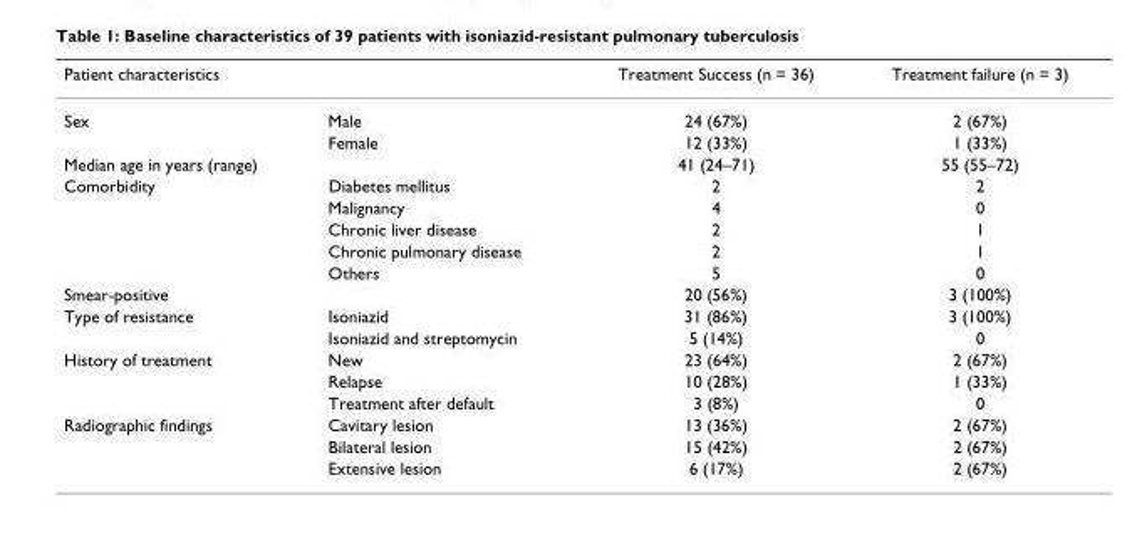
<table><thead><tr><td colspan="2">Patient characteristics</td><td rowspan="2">Treatment Success (n = 36) 24 (67%)</td><td rowspan="2">Treatment failure (n = 3) 2 (67%)</td></tr><tr><td>Sex</td><td>Male</td></tr></thead><tbody><tr><td></td><td>Female</td><td>12 (33%)</td><td>1 (33%)</td></tr><tr><td colspan="2">Median age in years (range)</td><td>41 (24–71)</td><td>55 (55–72)</td></tr><tr><td rowspan="5">Comorbidity</td><td>Diabetes mellitus</td><td>2</td><td>2</td></tr><tr><td>Malignancy</td><td>4</td><td>0</td></tr><tr><td>Chronic liver disease</td><td>2</td><td>1</td></tr><tr><td>Chronic pulmonary disease</td><td>2</td><td>1</td></tr><tr><td>Others</td><td>5</td><td>0</td></tr><tr><td>Smear-positive</td><td></td><td>20 (56%)</td><td>3 (100%)</td></tr><tr><td rowspan="2">Type of resistance</td><td>Isoniazid</td><td>31 (86%)</td><td>3 (100%)</td></tr><tr><td>Isoniazid and streptomycin</td><td>5 (14%)</td><td>0</td></tr><tr><td rowspan="3">History of treatment</td><td>New</td><td>23 (64%)</td><td>2 (67%)</td></tr><tr><td>Relapse</td><td>10 (28%)</td><td>1 (33%)</td></tr><tr><td>Treatment after default</td><td>3 (8%)</td><td>0</td></tr><tr><td rowspan="3">Radiographic findings</td><td>Cavitary lesion</td><td>13 (36%)</td><td>2 (67%)</td></tr><tr><td>Bilateral lesion</td><td>15 (42%)</td><td>2 (67%)</td></tr><tr><td>Extensive lesion</td><td>6 (17%)</td><td>2 (67%)</td></tr></tbody></table>